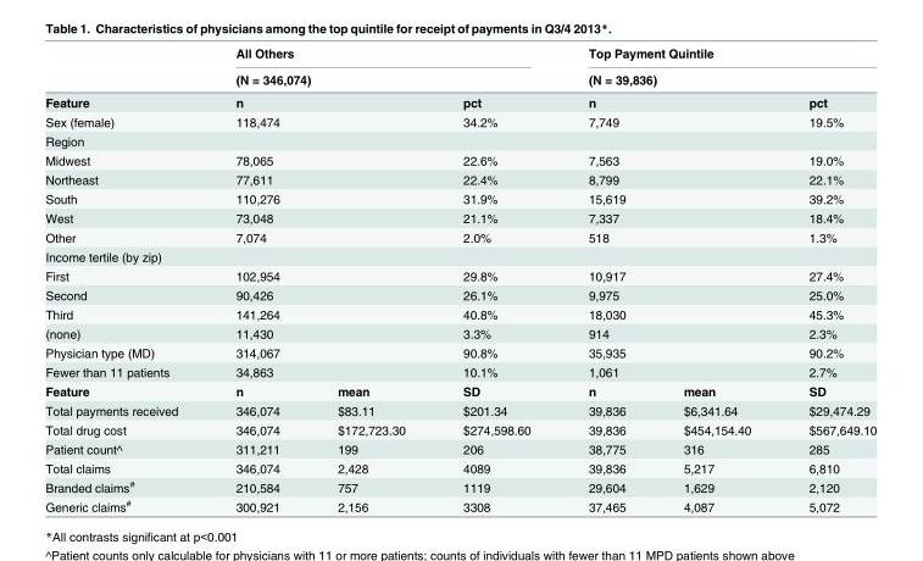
<table><thead><tr><td rowspan="2"></td><td rowspan="2" colspan="3">All Others (N = 346,074)</td><td rowspan="2" colspan="3">Top Payment Quintile (N = 39,836)</td></tr><tr></tr></thead><tbody><tr><td>Feature</td><td colspan="2">n</td><td>pct</td><td colspan="2">n</td><td>pct</td></tr><tr><td>Sex (female)</td><td colspan="2">118,474</td><td>34.2%</td><td colspan="2">7,749</td><td>19.5%</td></tr><tr><td colspan="7">Region</td></tr><tr><td>Midwest</td><td colspan="2">78,065</td><td>22.6%</td><td colspan="2">7,563</td><td>19.0%</td></tr><tr><td>Northeast</td><td colspan="2">77,611</td><td>22.4%</td><td colspan="2">8,799</td><td>22.1%</td></tr><tr><td>South</td><td colspan="2">110,276</td><td>31.9%</td><td colspan="2">15,619</td><td>39.2%</td></tr><tr><td>West</td><td colspan="2">73,048</td><td>21.1%</td><td colspan="2">7,337</td><td>18.4%</td></tr><tr><td>Other</td><td colspan="2">7,074</td><td>2.0%</td><td colspan="2">518</td><td>1.3%</td></tr><tr><td colspan="7">Income tertile (by zip)</td></tr><tr><td>First</td><td colspan="2">102,954</td><td>29.8%</td><td colspan="2">10,917</td><td>27.4%</td></tr><tr><td>Second</td><td colspan="2">90,426</td><td>26.1%</td><td colspan="2">9,975</td><td>25.0%</td></tr><tr><td>Third</td><td colspan="2">141,264</td><td>40.8%</td><td colspan="2">18,030</td><td>45.3%</td></tr><tr><td>(none)</td><td colspan="2">11,430</td><td>3.3%</td><td colspan="2">914</td><td>2.3%</td></tr><tr><td>Physician type (MD)</td><td colspan="2">314,067</td><td>90.8%</td><td colspan="2">35,935</td><td>90.2%</td></tr><tr><td>Fewer than 11 patients</td><td colspan="2">34,863</td><td>10.1%</td><td colspan="2">1,061</td><td>2.7%</td></tr><tr><td>Feature</td><td>n</td><td>mean</td><td>SD</td><td>n</td><td>mean</td><td>SD</td></tr><tr><td>Total payments received</td><td>346,074</td><td>$83.11</td><td>$201.34</td><td>39,836</td><td>$6,341.64</td><td>$29,474.29</td></tr><tr><td>Total drug cost</td><td>346,074</td><td>$172,723.30</td><td>$274,598.60</td><td>39,836</td><td>$454,154.40</td><td>$567,649.10</td></tr><tr><td>Patient count^</td><td>311,211</td><td>199</td><td>206</td><td>38,775</td><td>316</td><td>285</td></tr><tr><td>Total claims</td><td>346,074</td><td>2,428</td><td>4089</td><td>39,836</td><td>5,217</td><td>6,810</td></tr><tr><td>Branded claims<sup>#</sup></td><td>210,584</td><td>757</td><td>1119</td><td>29,604</td><td>1,629</td><td>2,120</td></tr><tr><td>Generic claims<sup>#</sup></td><td>300,921</td><td>2,156</td><td>3308</td><td>37,465</td><td>4,087</td><td>5,072</td></tr></tbody></table>